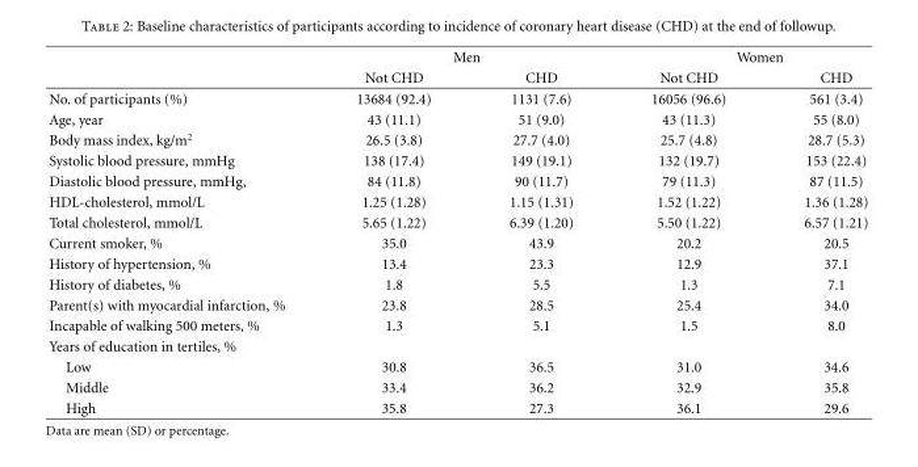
<table><thead><tr><td rowspan="2"></td><td colspan="2">Men</td><td colspan="2">Women</td></tr><tr><td>Not CHD</td><td>CHD</td><td>Not CHD</td><td>CHD</td></tr></thead><tbody><tr><td>No. of participants (%)</td><td>13684 (92.4)</td><td>1131 (7.6)</td><td>16056 (96.6)</td><td>561 (3.4)</td></tr><tr><td>Age, year</td><td>43 (11.1)</td><td>51 (9.0)</td><td>43 (11.3)</td><td>55 (8.0)</td></tr><tr><td>Body mass index, kg/m<sup>2</sup></td><td>26.5 (3.8)</td><td>27.7 (4.0)</td><td>25.7 (4.8)</td><td>28.7 (5.3)</td></tr><tr><td>Systolic blood pressure, mmHg</td><td>138 (17.4)</td><td>149 (19.1)</td><td>132 (19.7)</td><td>153 (22.4)</td></tr><tr><td>Diastolic blood pressure, mmHg,</td><td>84 (11.8)</td><td>90 (11.7)</td><td>79 (11.3)</td><td>87 (11.5)</td></tr><tr><td>HDL-cholesterol, mmol/L</td><td>1.25 (1.28)</td><td>1.15 (1.31)</td><td>1.52 (1.22)</td><td>1.36 (1.28)</td></tr><tr><td>Total cholesterol, mmol/L</td><td>5.65 (1.22)</td><td>6.39 (1.20)</td><td>5.50 (1.22)</td><td>6.57 (1.21)</td></tr><tr><td>Current smoker, %</td><td>35.0</td><td>43.9</td><td>20.2</td><td>20.5</td></tr><tr><td>History of hypertension, %</td><td>13.4</td><td>23.3</td><td>12.9</td><td>37.1</td></tr><tr><td>History of diabetes, %</td><td>1.8</td><td>5.5</td><td>1.3</td><td>7.1</td></tr><tr><td>Parent(s) with myocardial infarction, %</td><td>23.8</td><td>28.5</td><td>25.4</td><td>34.0</td></tr><tr><td>Incapable of walking 500 meters, %</td><td>1.3</td><td>5.1</td><td>1.5</td><td>8.0</td></tr><tr><td colspan="5">Years of education in tertiles, %</td></tr><tr><td>Low</td><td>30.8</td><td>36.5</td><td>31.0</td><td>34.6</td></tr><tr><td>Middle</td><td>33.4</td><td>36.2</td><td>32.9</td><td>35.8</td></tr><tr><td>High</td><td>35.8</td><td>27.3</td><td>36.1</td><td>29.6</td></tr></tbody></table>